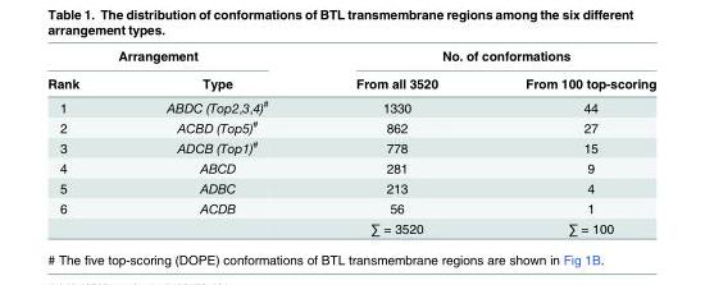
<table><thead><tr><td colspan="2">Arrangement</td><td colspan="2">No. of conformations</td></tr><tr><td>Rank</td><td>Type</td><td>From all 3520</td><td>From 100 top-scoring</td></tr></thead><tbody><tr><td>1</td><td>ABDC (Top2,3,4)<sup>#</sup></td><td>1330</td><td>44</td></tr><tr><td>2</td><td>ACBD (Top5)<sup>#</sup></td><td>862</td><td>27</td></tr><tr><td>3</td><td>ADCB (Top1)<sup>#</sup></td><td>778</td><td>15</td></tr><tr><td>4</td><td>ABCD</td><td>281</td><td>9</td></tr><tr><td>5</td><td>ADBC</td><td>213</td><td>4</td></tr><tr><td rowspan="2">6</td><td>ACDB</td><td>56</td><td>1</td></tr><tr><td></td><td>∑ = 3520</td><td>∑ = 100</td></tr></tbody></table>